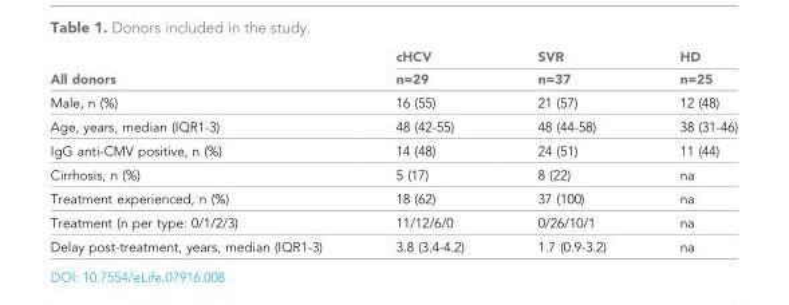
<table><thead><tr><td rowspan="2">All donors</td><td rowspan="2">cHCV n=29</td><td rowspan="2">SVR n=37</td><td rowspan="2">HD n=25</td></tr><tr></tr></thead><tbody><tr><td>Male, n (%)</td><td>16 (55)</td><td>21 (57)</td><td>12 (48)</td></tr><tr><td>Age, years, median (IQR1-3)</td><td>48 (42-55)</td><td>48 (44-58)</td><td>38 (31-46)</td></tr><tr><td>IgG anti-CMV positive, n (%)</td><td>14 (48)</td><td>24 (51)</td><td>11 (44)</td></tr><tr><td>Cirrhosis, n (%)</td><td>5 (17)</td><td>8 (22)</td><td>na</td></tr><tr><td>Treatment experienced, n (%)</td><td>18 (62)</td><td>37 (100)</td><td>na</td></tr><tr><td>Treatment (n per type: 0/1/2/3)</td><td>11/12/6/0</td><td>0/26/10/1</td><td>na</td></tr><tr><td>Delay post-treatment, years, median (IQR1-3)</td><td>3.8 (3.4-4.2)</td><td>1.7 (0.9-3.2)</td><td>na</td></tr></tbody></table>